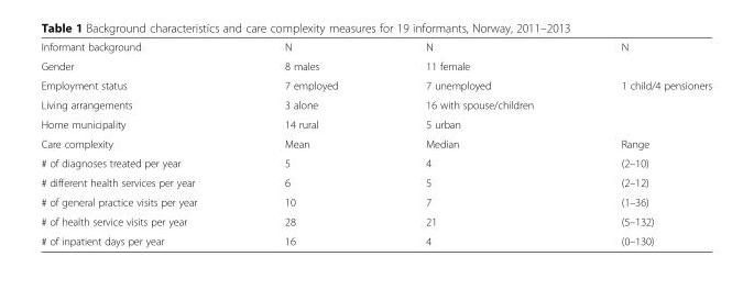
<table><tbody><tr><td>Informant background</td><td>N</td><td>N</td><td>N</td></tr><tr><td>Gender</td><td>8 males</td><td>11 female</td><td></td></tr><tr><td>Employment status</td><td>7 employed</td><td>7 unemployed</td><td>1 child/4 pensioners</td></tr><tr><td>Living arrangements</td><td>3 alone</td><td>16 with spouse/children</td><td></td></tr><tr><td>Home municipality</td><td>14 rural</td><td>5 urban</td><td></td></tr><tr><td>Care complexity</td><td>Mean</td><td>Median</td><td>Range</td></tr><tr><td># of diagnoses treated per year</td><td>5</td><td>4</td><td>(2–10)</td></tr><tr><td># different health services per year</td><td>6</td><td>5</td><td>(2–12)</td></tr><tr><td># of general practice visits per year</td><td>10</td><td>7</td><td>(1–36)</td></tr><tr><td># of health service visits per year</td><td>28</td><td>21</td><td>(5–132)</td></tr><tr><td># of inpatient days per year</td><td>16</td><td>4</td><td>(0–130)</td></tr></tbody></table>